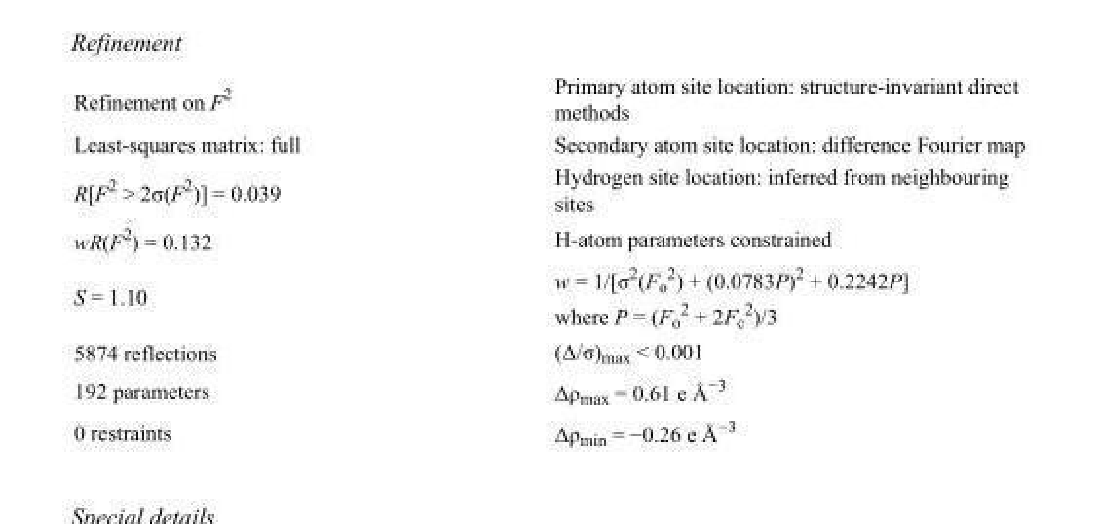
<table><tbody><tr><td>Refinement on F<sup>2</sup></td><td>Primary atom site location: structure-invariant direct methods</td></tr><tr><td>Least-squares matrix: full</td><td>Secondary atom site location: difference Fourier map</td></tr><tr><td>R[F<sup>2</sup> &gt; 2σ(F<sup>2</sup>)] = 0.039</td><td>Hydrogen site location: inferred from neighbouring sites</td></tr><tr><td>wR(F<sup>2</sup>) = 0.132</td><td>H-atom parameters constrained</td></tr><tr><td>S = 1.10</td><td>w = 1/[σ<sup>2</sup>(F<sub>o</sub> <sup>2</sup>) + (0.0783P)<sup>2</sup> + 0.2242P] where P = (F<sub>o</sub> <sup>2</sup> + 2F<sub>c</sub> <sup>2</sup>)/3</td></tr><tr><td>5874 reflections</td><td>(Δ/σ)<sub>max</sub> &lt; 0.001</td></tr><tr><td>192 parameters</td><td>Δρ<sub>max</sub> = 0.61 e Å<sup>−3</sup></td></tr><tr><td>0 restraints</td><td>Δρ<sub>min</sub> = −0.26 e Å<sup>−3</sup></td></tr></tbody></table>